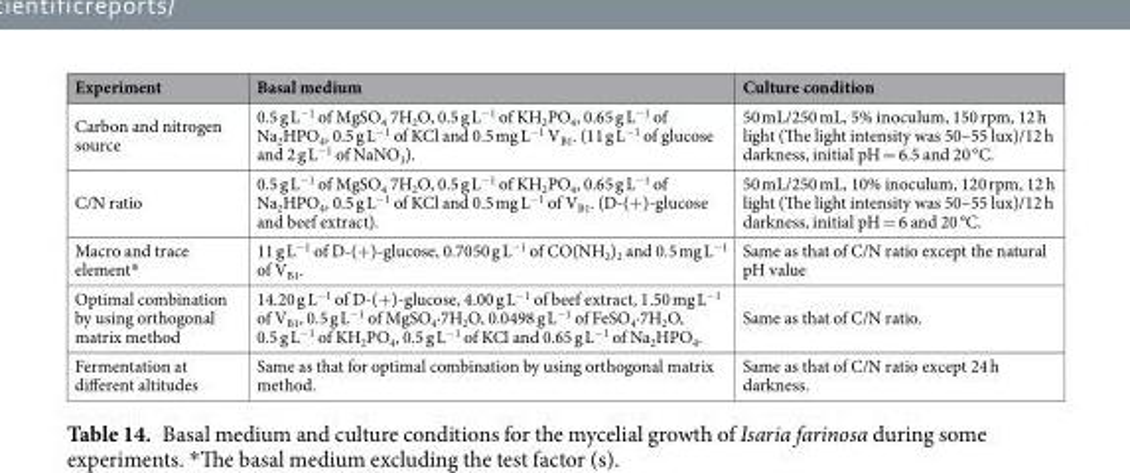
<table><thead><tr><td>Experiment</td><td>Basal medium</td><td>Culture condition</td></tr></thead><tbody><tr><td>Carbon and nitrogen source</td><td>0.5 g L<sup>−1</sup> of MgSO<sub>4</sub> 7H<sub>2</sub>O, 0.5 g L<sup>−1</sup> of KH<sub>2</sub>PO<sub>4</sub>, 0.65 g L<sup>−1</sup> of Na<sub>2</sub>HPO<sub>4</sub>, 0.5 g L<sup>−1</sup> of KCl and 0.5 mg L<sup>−1</sup> V<sub>B1</sub>. (11 g L<sup>−1</sup> of glucose and 2 g L<sup>−1</sup> of NaNO<sub>3</sub>).</td><td>50 mL/250 mL, 5% inoculum, 150 rpm, 12 h light (The light intensity was 50–55 lux)/12 h darkness, initial pH = 6.5 and 20 °C.</td></tr><tr><td>C/N ratio</td><td>0.5 g L<sup>−1</sup> of MgSO<sub>4</sub> 7H<sub>2</sub>O, 0.5 g L<sup>−1</sup> of KH<sub>2</sub>PO<sub>4</sub>, 0.65 g L<sup>−1</sup> of Na<sub>2</sub>HPO<sub>4</sub>, 0.5 g L<sup>−1</sup> of KCl and 0.5 mg L<sup>−1</sup> of V<sub>B1</sub>. (D-(+)-glucose and beef extract).</td><td>50 mL/250 mL, 10% inoculum, 120 rpm, 12 h light (The light intensity was 50–55 lux)/12 h darkness, initial pH = 6 and 20 °C.</td></tr><tr><td>Macro and trace element*</td><td>11 g L<sup>−1</sup> of D-(+)-glucose, 0.7050 g L<sup>−1</sup> of CO(NH<sub>2</sub>)<sub>2</sub> and 0.5 mg L<sup>−1</sup> of V<sub>B1</sub>.</td><td>Same as that of C/N ratio except the natural pH value</td></tr><tr><td>Optimal combination by using orthogonal matrix method</td><td>14.20 g L<sup>−1</sup> of D-(+)-glucose, 4.00 g L<sup>−1</sup> of beef extract, 1.50 mg L<sup>−1</sup> of V<sub>B1</sub>, 0.5 g L<sup>−1</sup> of MgSO<sub>4</sub>·7H<sub>2</sub>O, 0.0498 g L<sup>−1</sup> of FeSO<sub>4</sub>·7H<sub>2</sub>O, 0.5 g L<sup>−1</sup> of KH<sub>2</sub>PO<sub>4</sub>, 0.5 g L<sup>−1</sup> of KCl and 0.65 g L<sup>−1</sup> of Na<sub>2</sub>HPO<sub>4</sub>.</td><td>Same as that of C/N ratio.</td></tr><tr><td>Fermentation at different altitudes</td><td>Same as that for optimal combination by using orthogonal matrix method.</td><td>Same as that of C/N ratio except 24 h darkness.</td></tr></tbody></table>